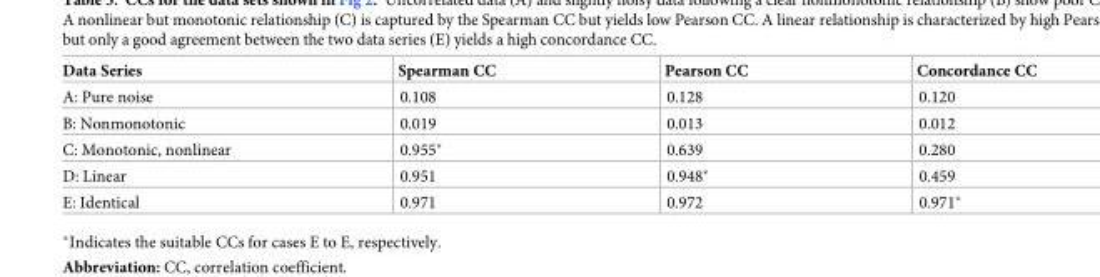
<table><thead><tr><td>Data Series</td><td>Spearman CC</td><td>Pearson CC</td><td>Concordance CC</td></tr></thead><tbody><tr><td>A: Pure noise</td><td>0.108</td><td>0.128</td><td>0.120</td></tr><tr><td>B: Nonmonotonic</td><td>0.019</td><td>0.013</td><td>0.012</td></tr><tr><td>C: Monotonic, nonlinear</td><td>0.955*</td><td>0.639</td><td>0.280</td></tr><tr><td>D: Linear</td><td>0.951</td><td>0.948*</td><td>0.459</td></tr><tr><td>E: Identical</td><td>0.971</td><td>0.972</td><td>0.971*</td></tr></tbody></table>